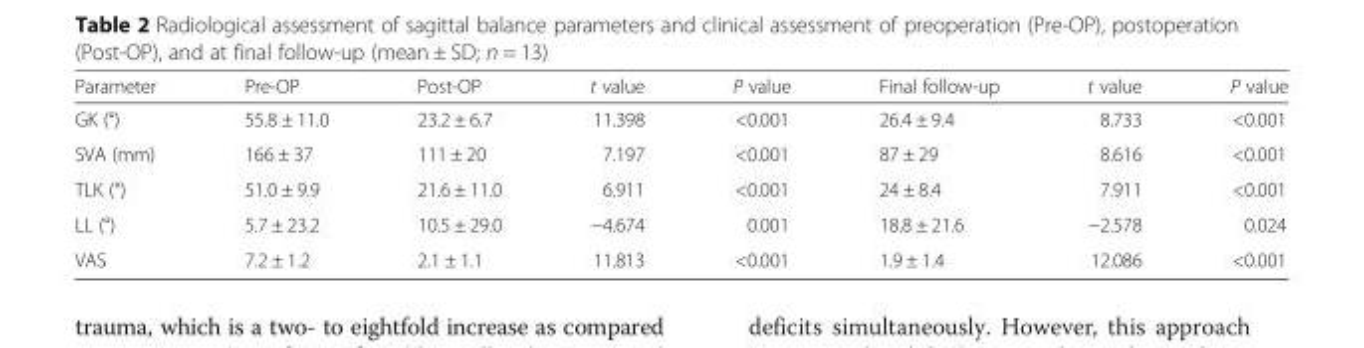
<table><thead><tr><td>Parameter</td><td>Pre-OP</td><td>Post-OP</td><td>t value</td><td>P value</td><td>Final follow-up</td><td>t value</td><td>P value</td></tr></thead><tbody><tr><td>GK (°)</td><td>55.8 ± 11.0</td><td>23.2 ± 6.7</td><td>11.398</td><td>&lt;0.001</td><td>26.4 ± 9.4</td><td>8.733</td><td>&lt;0.001</td></tr><tr><td>SVA (mm)</td><td>166 ± 37</td><td>111 ± 20</td><td>7.197</td><td>&lt;0.001</td><td>87 ± 29</td><td>8.616</td><td>&lt;0.001</td></tr><tr><td>TLK (°)</td><td>51.0 ± 9.9</td><td>21.6 ± 11.0</td><td>6.911</td><td>&lt;0.001</td><td>24 ± 8.4</td><td>7.911</td><td>&lt;0.001</td></tr><tr><td>LL (°)</td><td>5.7 ± 23.2</td><td>10.5 ± 29.0</td><td>−4.674</td><td>0.001</td><td>18.8 ± 21.6</td><td>−2.578</td><td>0.024</td></tr><tr><td>VAS</td><td>7.2 ± 1.2</td><td>2.1 ± 1.1</td><td>11.813</td><td>&lt;0.001</td><td>1.9 ± 1.4</td><td>12.086</td><td>&lt;0.001</td></tr></tbody></table>